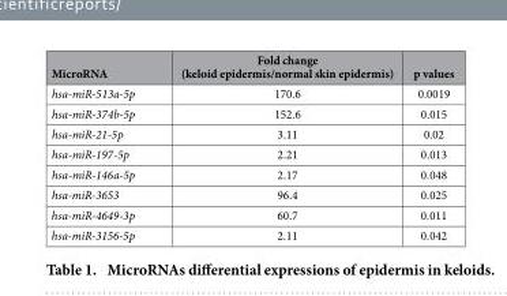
<table><thead><tr><td>MicroRNA</td><td>Fold change (keloid epidermis/normal skin epidermis)</td><td>p values</td></tr></thead><tbody><tr><td>hsa-miR-513a-5p</td><td>170.6</td><td>0.0019</td></tr><tr><td>hsa-miR-374b-5p</td><td>152.6</td><td>0.015</td></tr><tr><td>hsa-miR-21-5p</td><td>3.11</td><td>0.02</td></tr><tr><td>hsa-miR-197-5p</td><td>2.21</td><td>0.013</td></tr><tr><td>hsa-miR-146a-5p</td><td>2.17</td><td>0.048</td></tr><tr><td>hsa-miR-3653</td><td>96.4</td><td>0.025</td></tr><tr><td>hsa-miR-4649-3p</td><td>60.7</td><td>0.011</td></tr><tr><td>hsa-miR-3156-5p</td><td>2.11</td><td>0.042</td></tr></tbody></table>